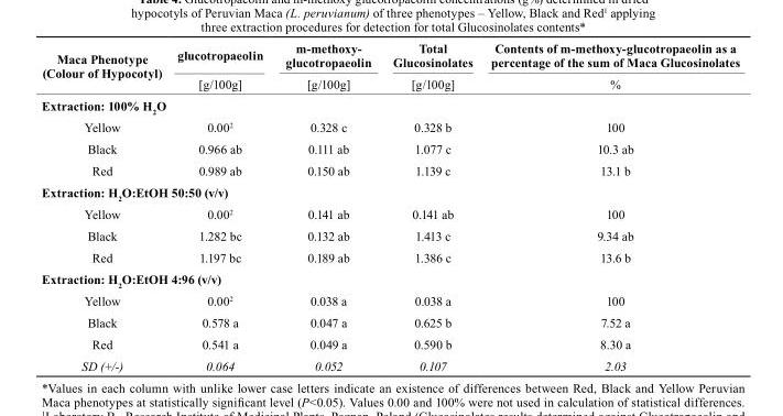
<table><thead><tr><td rowspan="2">Maca Phenotype (colour of Hypocotyl)</td><td rowspan="2">glucotropaeolin [g/100g]</td><td rowspan="2">m-methoxy- glucotropaeolin [g/100g]</td><td rowspan="2">total Glucosinolates [g/100g]</td><td rowspan="2">contents of m-methoxy-glucotropaeolin as a percentage of the sum of Maca Glucosinolates %</td></tr><tr></tr></thead><tbody><tr><td colspan="5">Extraction: 100% H<sub>2</sub>O</td></tr><tr><td>Yellow</td><td>0.00<sup>2</sup></td><td>0.328 c</td><td>0.328 b</td><td>100</td></tr><tr><td>Black</td><td>0.966 ab</td><td>0.111 ab</td><td>1.077 c</td><td>10.3 ab</td></tr><tr><td>Red</td><td>0.989 ab</td><td>0.150 ab</td><td>1.139 c</td><td>13.1 b</td></tr><tr><td colspan="5">Extraction: H<sub>2</sub>O:EtOH 50:50 (v/v)</td></tr><tr><td>Yellow</td><td>0.00<sup>2</sup></td><td>0.141 ab</td><td>0.141 ab</td><td>100</td></tr><tr><td>Black</td><td>1.282 bc</td><td>0.132 ab</td><td>1.413 c</td><td>9.34 ab</td></tr><tr><td>Red</td><td>1.197 bc</td><td>0.189 ab</td><td>1.386 c</td><td>13.6 b</td></tr><tr><td colspan="5">Extraction: H<sub>2</sub>O:EtOH 4:96 (v/v)</td></tr><tr><td>Yellow</td><td>0.00<sup>2</sup></td><td>0.038 a</td><td>0.038 a</td><td>100</td></tr><tr><td>Black</td><td>0.578 a</td><td>0.047 a</td><td>0.625 b</td><td>7.52 a</td></tr><tr><td>Red</td><td>0.541 a</td><td>0.049 a</td><td>0.590 b</td><td>8.30 a</td></tr><tr><td>SD (+/-)</td><td>0.064</td><td>0.052</td><td>0.107</td><td>2.03</td></tr></tbody></table>